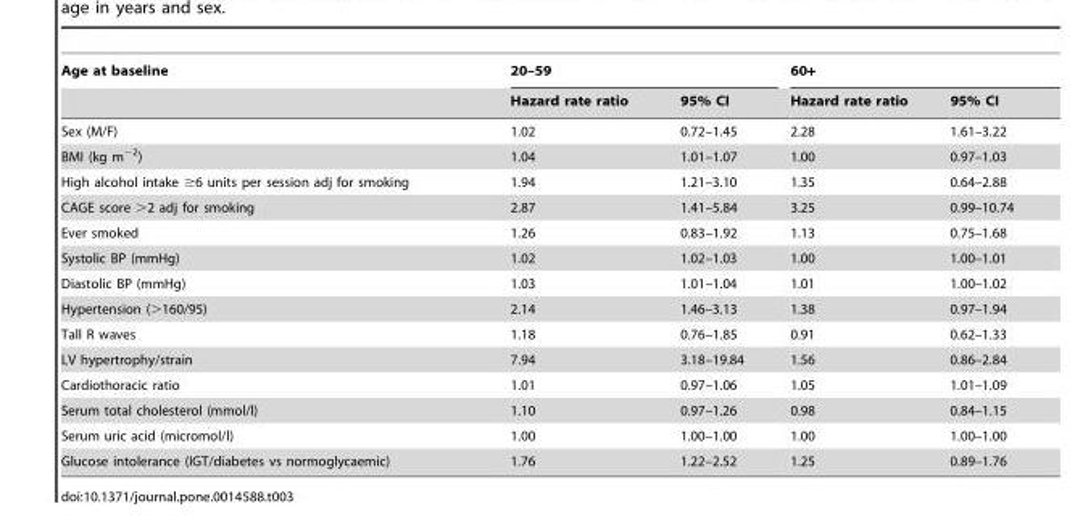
<table><thead><tr><td rowspan="2">Age at baseline</td><td colspan="2">20–59</td><td colspan="2">60+</td></tr><tr><td>Hazard rate ratio</td><td>95% CI</td><td>Hazard rate ratio</td><td>95% CI</td></tr></thead><tbody><tr><td>Sex (M/F)</td><td>1.02</td><td>0.72–1.45</td><td>2.28</td><td>1.61–3.22</td></tr><tr><td>BMI (kg m<sup>−2</sup>)</td><td>1.04</td><td>1.01–1.07</td><td>1.00</td><td>0.97–1.03</td></tr><tr><td>High alcohol intake ≥6 units per session adj for smoking</td><td>1.94</td><td>1.21–3.10</td><td>1.35</td><td>0.64–2.88</td></tr><tr><td>CAGE score &gt;2 adj for smoking</td><td>2.87</td><td>1.41–5.84</td><td>3.25</td><td>0.99–10.74</td></tr><tr><td>Ever smoked</td><td>1.26</td><td>0.83–1.92</td><td>1.13</td><td>0.75–1.68</td></tr><tr><td>Systolic BP (mmHg)</td><td>1.02</td><td>1.02–1.03</td><td>1.00</td><td>1.00–1.01</td></tr><tr><td>Diastolic BP (mmHg)</td><td>1.03</td><td>1.01–1.04</td><td>1.01</td><td>1.00–1.02</td></tr><tr><td>Hypertension (&gt;160/95)</td><td>2.14</td><td>1.46–3.13</td><td>1.38</td><td>0.97–1.94</td></tr><tr><td>Tall R waves</td><td>1.18</td><td>0.76–1.85</td><td>0.91</td><td>0.62–1.33</td></tr><tr><td>LV hypertrophy/strain</td><td>7.94</td><td>3.18–19.84</td><td>1.56</td><td>0.86–2.84</td></tr><tr><td>Cardiothoracic ratio</td><td>1.01</td><td>0.97–1.06</td><td>1.05</td><td>1.01–1.09</td></tr><tr><td>Serum total cholesterol (mmol/l)</td><td>1.10</td><td>0.97–1.26</td><td>0.98</td><td>0.84–1.15</td></tr><tr><td>Serum uric acid (micromol/l)</td><td>1.00</td><td>1.00–1.00</td><td>1.00</td><td>1.00–1.00</td></tr><tr><td>Glucose intolerance (IGT/diabetes vs normoglycaemic)</td><td>1.76</td><td>1.22–2.52</td><td>1.25</td><td>0.89–1.76</td></tr></tbody></table>